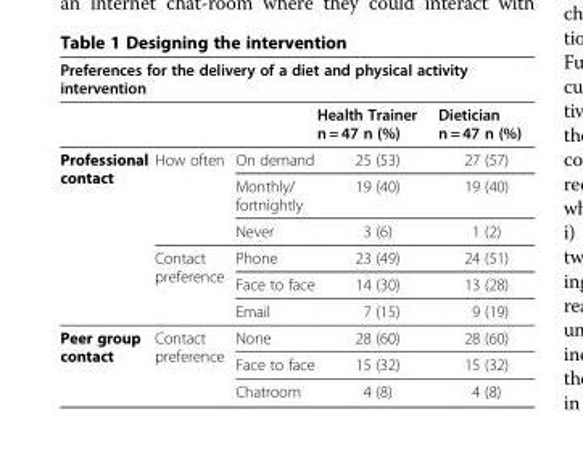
<table><thead><tr><td colspan="5">Preferences for the delivery of a diet and physical activity intervention</td></tr><tr><td></td><td></td><td></td><td>Health Trainer n = 47 n (%)</td><td>Dietician n = 47 n (%)</td></tr></thead><tbody><tr><td rowspan="6">Professional contact</td><td rowspan="3">How often</td><td>On demand</td><td>25 (53)</td><td>27 (57)</td></tr><tr><td>Monthly/ fortnightly</td><td>19 (40)</td><td>19 (40)</td></tr><tr><td>Never</td><td>3 (6)</td><td>1 (2)</td></tr><tr><td rowspan="3">Contact preference</td><td>Phone</td><td>23 (49)</td><td>24 (51)</td></tr><tr><td>Face to face</td><td>14 (30)</td><td>13 (28)</td></tr><tr><td>Email</td><td>7 (15)</td><td>9 (19)</td></tr><tr><td rowspan="3">Peer group contact</td><td rowspan="3">Contact preference</td><td>None</td><td>28 (60)</td><td>28 (60)</td></tr><tr><td>Face to face</td><td>15 (32)</td><td>15 (32)</td></tr><tr><td>Chatroom</td><td>4 (8)</td><td>4 (8)</td></tr></tbody></table>